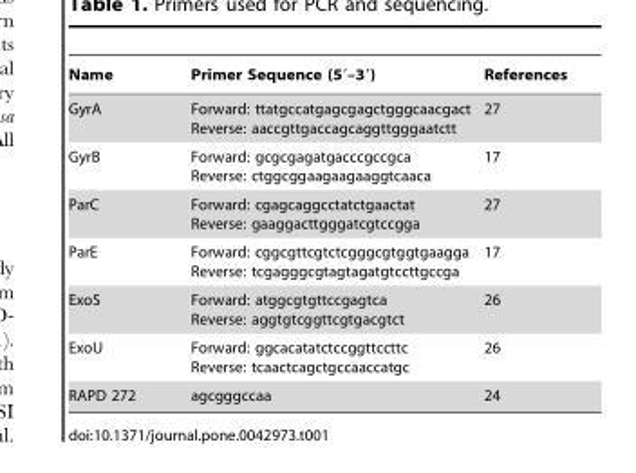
<table><thead><tr><td>Name</td><td>Primer Sequence (5′–3′)</td><td>References</td></tr></thead><tbody><tr><td>GyrA</td><td>Forward: ttatgccatgagcgagctgggcaacgact Reverse: aaccgttgaccagcaggttgggaatctt</td><td>27</td></tr><tr><td>GyrB</td><td>Forward: gcgcgagatgacccgccgca Reverse: ctggcggaagaagaaggtcaaca</td><td>17</td></tr><tr><td>ParC</td><td>Forward: cgagcaggcctatctgaactat Reverse: gaaggacttgggatcgtccgga</td><td>27</td></tr><tr><td>ParE</td><td>Forward: cggcgttcgtctcgggcgtggtgaagga Reverse: tcgagggcgtagtagatgtccttgccga</td><td>17</td></tr><tr><td>ExoS</td><td>Forward: atggcgtgttccgagtca Reverse: aggtgtcggttcgtgacgtct</td><td>26</td></tr><tr><td>ExoU</td><td>Forward: ggcacatatctccggttccttc Reverse: tcaactcagctgccaaccatgc</td><td>26</td></tr><tr><td>RAPD 272</td><td>agcgggccaa</td><td>24</td></tr></tbody></table>